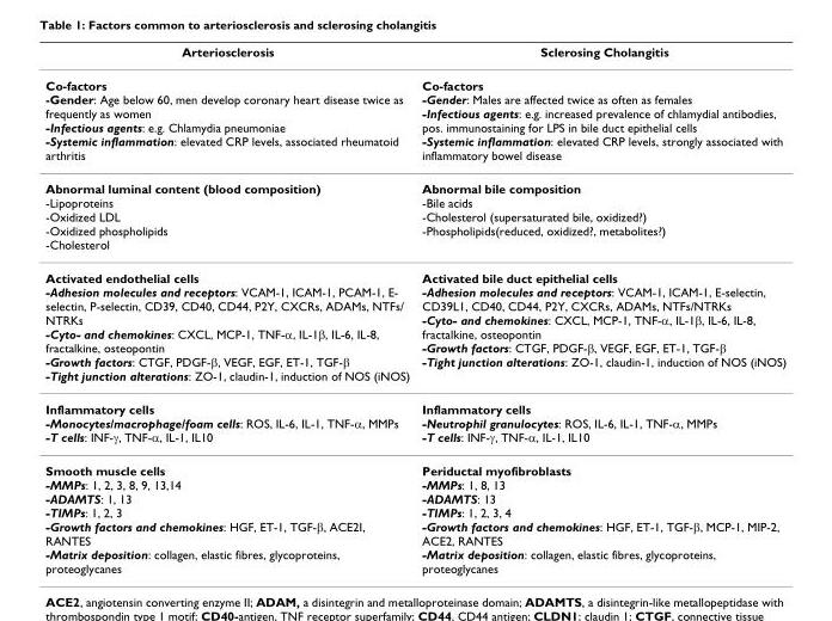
<table><thead><tr><td>Arteriosclerosis</td><td>Sclerosing Cholangitis</td></tr></thead><tbody><tr><td>Co-factors -Gender: Age below 60, men develop coronary heart disease twice as frequently as women -Infectious agents: e.g. Chlamydia pneumoniae -Systemic inflammation: elevated CRP levels, associated rheumatoid arthritis</td><td>Co-factors -Gender: Males are affected twice as often as females -Infectious agents: e.g. increased prevalence of chlamydial antibodies, pos. immunostaining for LPS in bile duct epithelial cells -Systemic inflammation: elevated CRP levels, strongly associated with inflammatory bowel disease</td></tr><tr><td>Abnormal luminal content (blood composition) -Lipoproteins -Oxidized LDL -Oxidized phospholipids -Cholesterol</td><td>Abnormal bile composition -Bile acids -Cholesterol (supersaturated bile, oxidized?) -Phospholipids(reduced, oxidized?, metabolites?)</td></tr><tr><td>Activated endothelial cells -Adhesion molecules and receptors: VCAM-1, ICAM-1, PCAM-1, E- selectin, P-selectin, CD39, CD40, CD44, P2Y, CXCRs, ADAMs, NTFs/ NTRKs -Cyto- and chemokines: CXCL, MCP-1, TNF-α, IL-1β, IL-6, IL-8, fractalkine, osteopontin -Growth factors: CTGF, PDGF-β, VEGF, EGF, ET-1, TGF-β -Tight junction alterations: ZO-1, claudin-1, induction of NOS (iNOS)</td><td>Activated bile duct epithelial cells -Adhesion molecules and receptors: VCAM-1, ICAM-1, E-selectin, CD39L1, CD40, CD44, P2Y, CXCRs, ADAMs, NTFs/NTRKs -Cyto- and chemokines: CXCL, MCP-1, TNF-α, IL-1β, IL-6, IL-8, fractalkine, osteopontin -Growth factors: CTGF, PDGF-β, VEGF, EGF, ET-1, TGF-β -Tight junction alterations: ZO-1, claudin-1, induction of NOS (iNOS)</td></tr><tr><td>Inflammatory cells -Monocytes/macrophage/foam cells: ROS, IL-6, IL-1, TNF-α, MMPs -T cells: INF-γ, TNF-α, IL-1, IL10</td><td>Inflammatory cells -Neutrophil granulocytes: ROS, IL-6, IL-1, TNF-α, MMPs -T cells: INF-γ, TNF-α, IL-1, IL10</td></tr><tr><td>Smooth muscle cells -MMPs: 1, 2, 3, 8, 9, 13,14 -ADAMTS: 1, 13 -TIMPs: 1, 2, 3 -Growth factors and chemokines: HGF, ET-1, TGF-β, ACE2I, RANTES -Matrix deposition: collagen, elastic fibres, glycoproteins, proteoglycanes</td><td>Periductal myofibroblasts -MMPs: 1, 8, 13 -ADAMTS: 13 -TIMPs: 1, 2, 3, 4 -Growth factors and chemokines: HGF, ET-1, TGF-β, MCP-1, MIP-2, ACE2, RANTES -Matrix deposition: collagen, elastic fibres, glycoproteins, proteoglycanes</td></tr></tbody></table>